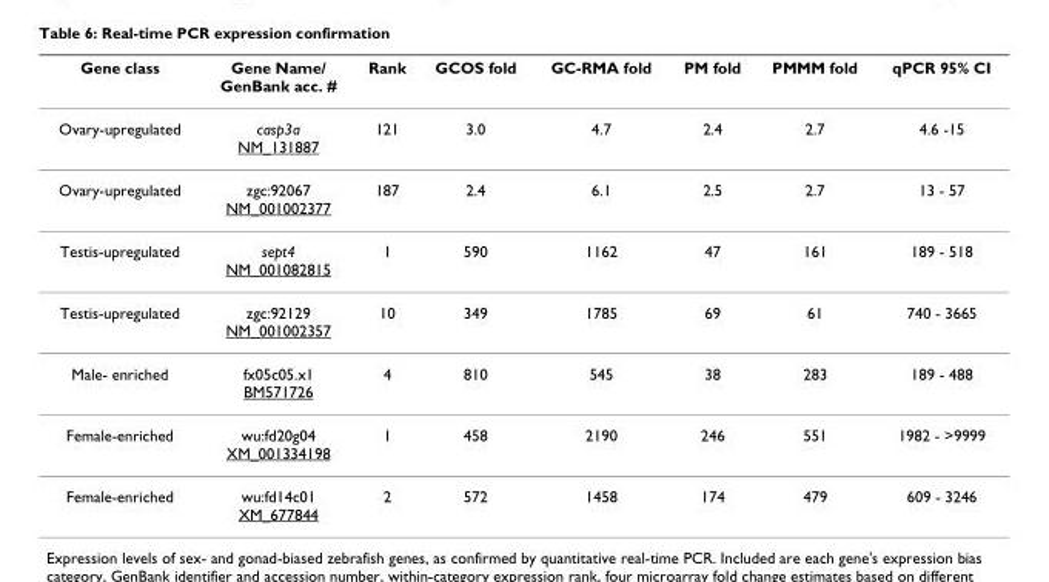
<table><thead><tr><td>Gene class</td><td>Gene Name/ GenBank acc. #</td><td>Rank</td><td>GCOS fold</td><td>GC-RMA fold</td><td>PM fold</td><td>PMMM fold</td><td>qPCR 95% CI</td></tr></thead><tbody><tr><td>Ovary-upregulated</td><td>casp3a NM_131887</td><td>121</td><td>3.0</td><td>4.7</td><td>2.4</td><td>2.7</td><td>4.6 -15</td></tr><tr><td>Ovary-upregulated</td><td>zgc:92067 NM_001002377</td><td>187</td><td>2.4</td><td>6.1</td><td>2.5</td><td>2.7</td><td>13 - 57</td></tr><tr><td>Testis-upregulated</td><td>sept4 NM_001082815</td><td>1</td><td>590</td><td>1162</td><td>47</td><td>161</td><td>189 - 518</td></tr><tr><td>Testis-upregulated</td><td>zgc:92129 NM_001002357</td><td>10</td><td>349</td><td>1785</td><td>69</td><td>61</td><td>740 - 3665</td></tr><tr><td>Male- enriched</td><td>fx05c05.x1 BM571726</td><td>4</td><td>810</td><td>545</td><td>38</td><td>283</td><td>189 - 488</td></tr><tr><td>Female-enriched</td><td>wu:fd20g04 XM_001334198</td><td>1</td><td>458</td><td>2190</td><td>246</td><td>551</td><td>1982 - &gt;9999</td></tr><tr><td>Female-enriched</td><td>wu:fd14c01 XM_677844</td><td>2</td><td>572</td><td>1458</td><td>174</td><td>479</td><td>609 - 3246</td></tr></tbody></table>